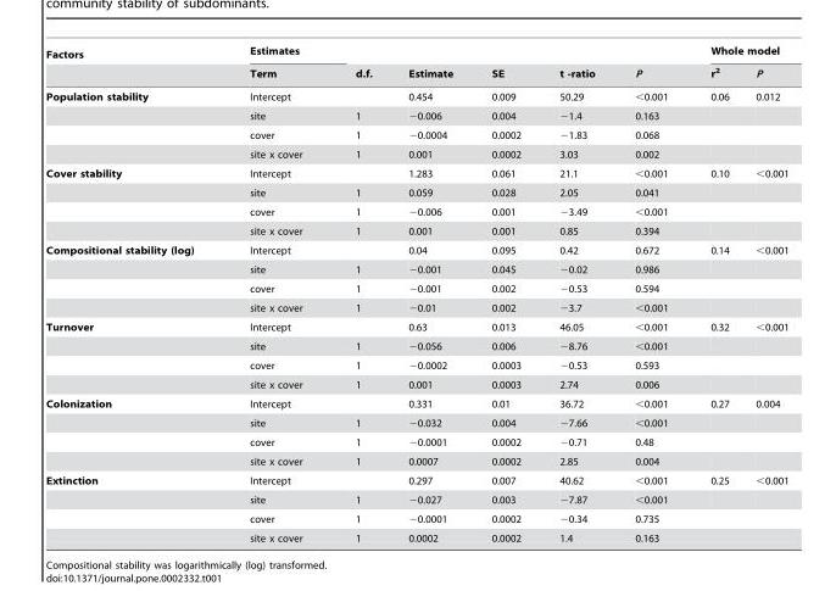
<table><thead><tr><td rowspan="2">Factors</td><td rowspan="2">Estimates Term</td><td rowspan="2">d.f.</td><td rowspan="2">Estimate</td><td rowspan="2">SE</td><td rowspan="2">t -ratio</td><td rowspan="2">P</td><td colspan="2">Whole model</td></tr><tr><td>r<sup>2</sup></td><td>P</td></tr></thead><tbody><tr><td rowspan="4">Population stability</td><td>Intercept</td><td></td><td>0.454</td><td>0.009</td><td>50.29</td><td>&lt;0.001</td><td>0.06</td><td>0.012</td></tr><tr><td>site</td><td>1</td><td>−0.006</td><td>0.004</td><td>−1.4</td><td>0.163</td><td></td><td></td></tr><tr><td>cover</td><td>1</td><td>−0.0004</td><td>0.0002</td><td>−1.83</td><td>0.068</td><td></td><td></td></tr><tr><td>site x cover</td><td>1</td><td>0.001</td><td>0.0002</td><td>3.03</td><td>0.002</td><td></td><td></td></tr><tr><td rowspan="4">Cover stability</td><td>Intercept</td><td></td><td>1.283</td><td>0.061</td><td>21.1</td><td>&lt;0.001</td><td>0.10</td><td>&lt;0.001</td></tr><tr><td>site</td><td>1</td><td>0.059</td><td>0.028</td><td>2.05</td><td>0.041</td><td></td><td></td></tr><tr><td>cover</td><td>1</td><td>−0.006</td><td>0.001</td><td>−3.49</td><td>&lt;0.001</td><td></td><td></td></tr><tr><td>site x cover</td><td>1</td><td>0.001</td><td>0.001</td><td>0.85</td><td>0.394</td><td></td><td></td></tr><tr><td rowspan="4">Compositional stability (log)</td><td>Intercept</td><td></td><td>0.04</td><td>0.095</td><td>0.42</td><td>0.672</td><td>0.14</td><td>&lt;0.001</td></tr><tr><td>site</td><td>1</td><td>−0.001</td><td>0.045</td><td>−0.02</td><td>0.986</td><td></td><td></td></tr><tr><td>cover</td><td>1</td><td>−0.001</td><td>0.002</td><td>−0.53</td><td>0.594</td><td></td><td></td></tr><tr><td>site x cover</td><td>1</td><td>−0.01</td><td>0.002</td><td>−3.7</td><td>&lt;0.001</td><td></td><td></td></tr><tr><td rowspan="4">Turnover</td><td>Intercept</td><td></td><td>0.63</td><td>0.013</td><td>46.05</td><td>&lt;0.001</td><td>0.32</td><td>&lt;0.001</td></tr><tr><td>site</td><td>1</td><td>−0.056</td><td>0.006</td><td>−8.76</td><td>&lt;0.001</td><td></td><td></td></tr><tr><td>cover</td><td>1</td><td>−0.0002</td><td>0.0003</td><td>−0.53</td><td>0.593</td><td></td><td></td></tr><tr><td>site x cover</td><td>1</td><td>0.001</td><td>0.0003</td><td>2.74</td><td>0.006</td><td></td><td></td></tr><tr><td rowspan="4">Colonization</td><td>Intercept</td><td></td><td>0.331</td><td>0.01</td><td>36.72</td><td>&lt;0.001</td><td>0.27</td><td>0.004</td></tr><tr><td>site</td><td>1</td><td>−0.032</td><td>0.004</td><td>−7.66</td><td>&lt;0.001</td><td></td><td></td></tr><tr><td>cover</td><td>1</td><td>−0.0001</td><td>0.0002</td><td>−0.71</td><td>0.48</td><td></td><td></td></tr><tr><td>site x cover</td><td>1</td><td>0.0007</td><td>0.0002</td><td>2.85</td><td>0.004</td><td></td><td></td></tr><tr><td rowspan="4">Extinction</td><td>Intercept</td><td></td><td>0.297</td><td>0.007</td><td>40.62</td><td>&lt;0.001</td><td>0.25</td><td>&lt;0.001</td></tr><tr><td>site</td><td>1</td><td>−0.027</td><td>0.003</td><td>−7.87</td><td>&lt;0.001</td><td></td><td></td></tr><tr><td>cover</td><td>1</td><td>−0.0001</td><td>0.0002</td><td>−0.34</td><td>0.735</td><td></td><td></td></tr><tr><td>site x cover</td><td>1</td><td>0.0002</td><td>0.0002</td><td>1.4</td><td>0.163</td><td></td><td></td></tr></tbody></table>